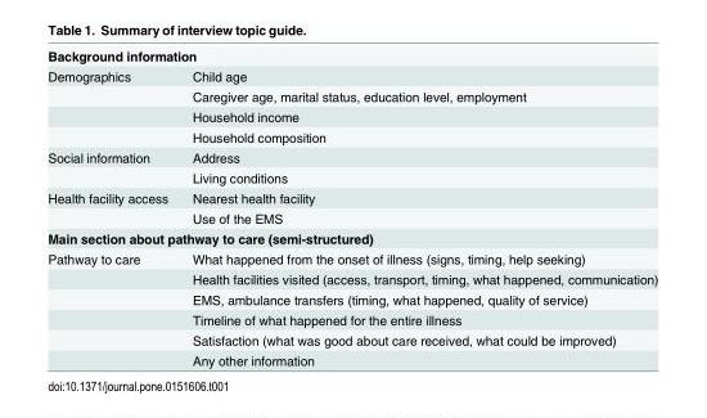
<table><tbody><tr><td colspan="2">Background information</td></tr><tr><td rowspan="4">Demographics</td><td>Child age</td></tr><tr><td>Caregiver age, marital status, education level, employment</td></tr><tr><td>Household income</td></tr><tr><td>Household composition</td></tr><tr><td rowspan="2">Social information</td><td>Address</td></tr><tr><td>Living conditions</td></tr><tr><td rowspan="2">Health facility access</td><td>Nearest health facility</td></tr><tr><td>Use of the EMS</td></tr><tr><td colspan="2">Main section about pathway to care (semi-structured)</td></tr><tr><td rowspan="6">Pathway to care</td><td>What happened from the onset of illness (signs, timing, help seeking)</td></tr><tr><td>Health facilities visited (access, transport, timing, what happened, communication)</td></tr><tr><td>EMS, ambulance transfers (timing, what happened, quality of service)</td></tr><tr><td>Timeline of what happened for the entire illness</td></tr><tr><td>Satisfaction (what was good about care received, what could be improved)</td></tr><tr><td>Any other information</td></tr></tbody></table>